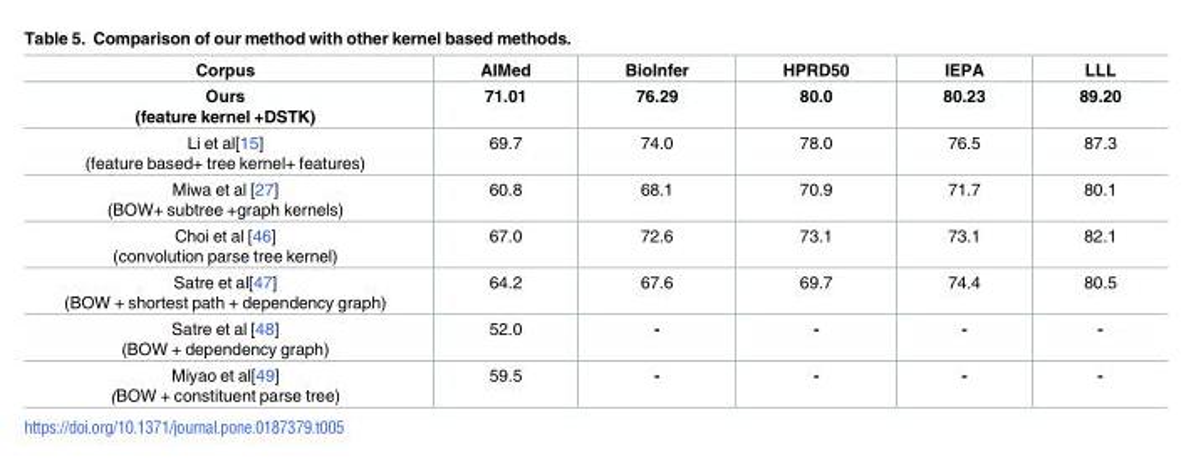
<table><thead><tr><td>Corpus</td><td>AIMed</td><td>BioInfer</td><td>HPRD50</td><td>IEPA</td><td>LLL</td></tr></thead><tbody><tr><td>Ours (feature kernel +DSTK)</td><td>71.01</td><td>76.29</td><td>80.0</td><td>80.23</td><td>89.20</td></tr><tr><td>Li et al[15] (feature based+ tree kernel+ features)</td><td>69.7</td><td>74.0</td><td>78.0</td><td>76.5</td><td>87.3</td></tr><tr><td>Miwa et al [27] (BOW+ subtree +graph kernels)</td><td>60.8</td><td>68.1</td><td>70.9</td><td>71.7</td><td>80.1</td></tr><tr><td>Choi et al [46] (convolution parse tree kernel)</td><td>67.0</td><td>72.6</td><td>73.1</td><td>73.1</td><td>82.1</td></tr><tr><td>Satre et al[47] (BOW + shortest path + dependency graph)</td><td>64.2</td><td>67.6</td><td>69.7</td><td>74.4</td><td>80.5</td></tr><tr><td>Satre et al [48] (BOW + dependency graph)</td><td>52.0</td><td>-</td><td>-</td><td>-</td><td>-</td></tr><tr><td>Miyao et al[49] (BOW + constituent parse tree)</td><td>59.5</td><td>-</td><td>-</td><td>-</td><td>-</td></tr></tbody></table>